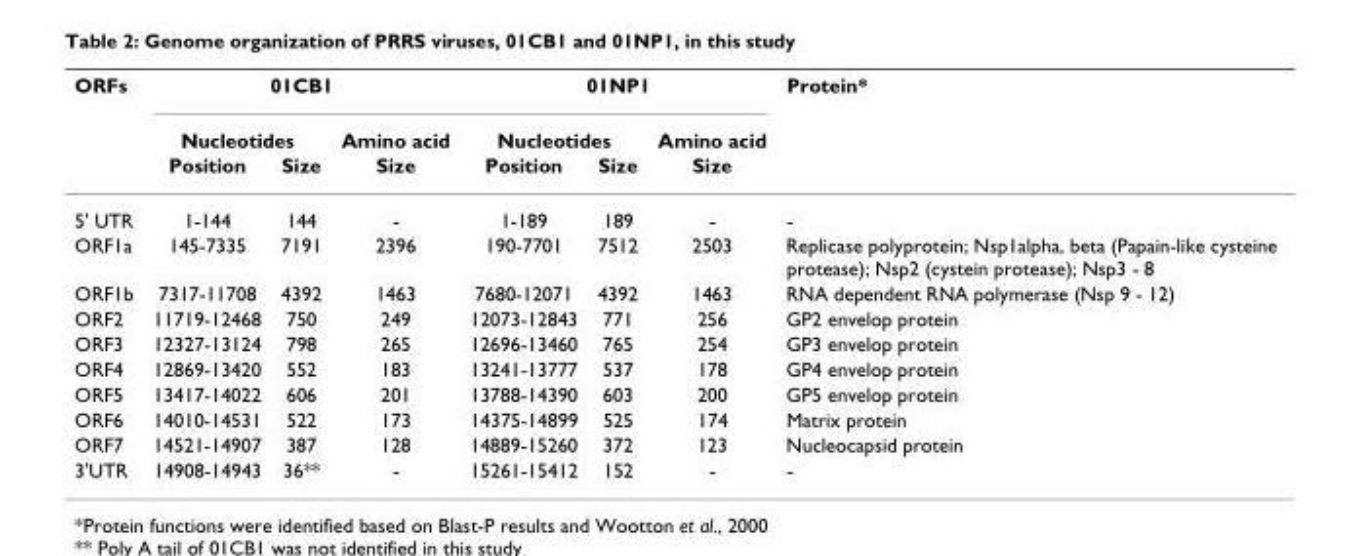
<table><thead><tr><td rowspan="3">ORFs</td><td colspan="3">01CB1</td><td colspan="3">01NP1</td><td rowspan="3">Protein*</td></tr><tr><td colspan="2">Nucleotides</td><td rowspan="2">Amino acid Size</td><td colspan="2">Nucleotides</td><td rowspan="2">Amino acid Size</td></tr><tr><td>Position</td><td>Size</td><td>Position</td><td>Size</td></tr></thead><tbody><tr><td>5&#x27; UTR</td><td>1-144</td><td>144</td><td>-</td><td>1-189</td><td>189</td><td>-</td><td>-</td></tr><tr><td>ORF1a</td><td>145-7335</td><td>7191</td><td>2396</td><td>190-7701</td><td>7512</td><td>2503</td><td>Replicase polyprotein; Nsp1alpha, beta (Papain-like cysteine protease); Nsp2 (cystein protease); Nsp3 - 8</td></tr><tr><td>ORF1b</td><td>7317-11708</td><td>4392</td><td>1463</td><td>7680-12071</td><td>4392</td><td>1463</td><td>RNA dependent RNA polymerase (Nsp 9 - 12)</td></tr><tr><td>ORF2</td><td>11719-12468</td><td>750</td><td>249</td><td>12073-12843</td><td>771</td><td>256</td><td>GP2 envelop protein</td></tr><tr><td>ORF3</td><td>12327-13124</td><td>798</td><td>265</td><td>12696-13460</td><td>765</td><td>254</td><td>GP3 envelop protein</td></tr><tr><td>ORF4</td><td>12869-13420</td><td>552</td><td>183</td><td>13241-13777</td><td>537</td><td>178</td><td>GP4 envelop protein</td></tr><tr><td>ORF5</td><td>13417-14022</td><td>606</td><td>201</td><td>13788-14390</td><td>603</td><td>200</td><td>GP5 envelop protein</td></tr><tr><td>ORF6</td><td>14010-14531</td><td>522</td><td>173</td><td>14375-14899</td><td>525</td><td>174</td><td>Matrix protein</td></tr><tr><td>ORF7</td><td>14521-14907</td><td>387</td><td>128</td><td>14889-15260</td><td>372</td><td>123</td><td>Nucleocapsid protein</td></tr><tr><td>3&#x27;UTR</td><td>14908-14943</td><td>36**</td><td>-</td><td>15261-15412</td><td>152</td><td>-</td><td>-</td></tr></tbody></table>